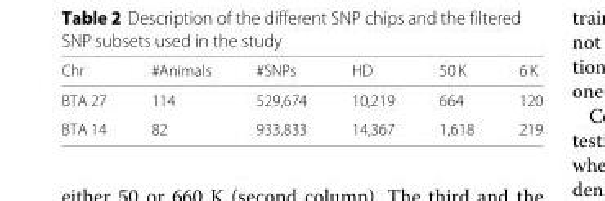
<table><thead><tr><td>Chr</td><td>#Animals</td><td>#SNPs</td><td>HD</td><td>50 K</td><td>6 K</td></tr></thead><tbody><tr><td>BTA 27</td><td>114</td><td>529,674</td><td>10,219</td><td>664</td><td>120</td></tr><tr><td>BTA 14</td><td>82</td><td>933,833</td><td>14,367</td><td>1,618</td><td>219</td></tr></tbody></table>